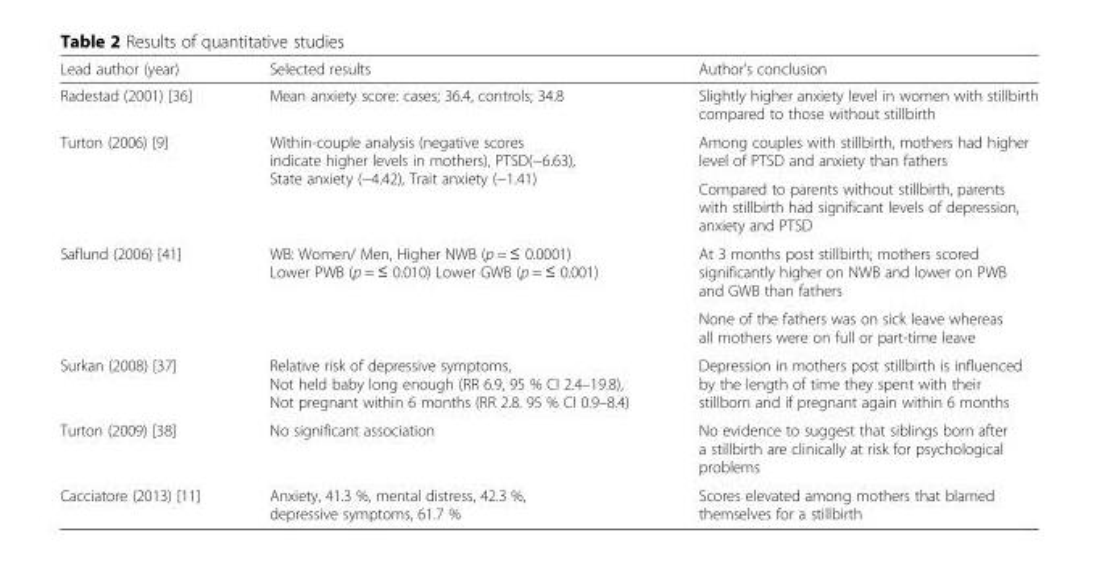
<table><thead><tr><td>Lead author (year)</td><td>Selected results</td><td>Author’s conclusion</td></tr></thead><tbody><tr><td>Radestad (2001) [36]</td><td>Mean anxiety score: cases; 36.4, controls; 34.8</td><td>Slightly higher anxiety level in women with stillbirth compared to those without stillbirth</td></tr><tr><td rowspan="2">Turton (2006) [9]</td><td rowspan="2">Within-couple analysis (negative scores indicate higher levels in mothers), PTSD(−6.63), State anxiety (−4.42), Trait anxiety (−1.41)</td><td>Among couples with stillbirth, mothers had higher level of PTSD and anxiety than fathers</td></tr><tr><td>Compared to parents without stillbirth, parents with stillbirth had significant levels of depression, anxiety and PTSD</td></tr><tr><td rowspan="2">Saflund (2006) [41]</td><td rowspan="2">WB: Women/ Men, Higher NWB (p = ≤ 0.0001) Lower PWB (p = ≤ 0.010) Lower GWB (p = ≤ 0.001)</td><td>At 3 months post stillbirth; mothers scored significantly higher on NWB and lower on PWB and GWB than fathers</td></tr><tr><td>None of the fathers was on sick leave whereas all mothers were on full or part-time leave</td></tr><tr><td>Surkan (2008) [37]</td><td>Relative risk of depressive symptoms, Not held baby long enough (RR 6.9, 95 % CI 2.4–19.8), Not pregnant within 6 months (RR 2.8. 95 % CI 0.9–8.4)</td><td>Depression in mothers post stillbirth is influenced by the length of time they spent with their stillborn and if pregnant again within 6 months</td></tr><tr><td>Turton (2009) [38]</td><td>No significant association</td><td>No evidence to suggest that siblings born after a stillbirth are clinically at risk for psychological problems</td></tr><tr><td>Cacciatore (2013) [11]</td><td>Anxiety, 41.3 %, mental distress, 42.3 %, depressive symptoms, 61.7 %</td><td>Scores elevated among mothers that blamed themselves for a stillbirth</td></tr></tbody></table>